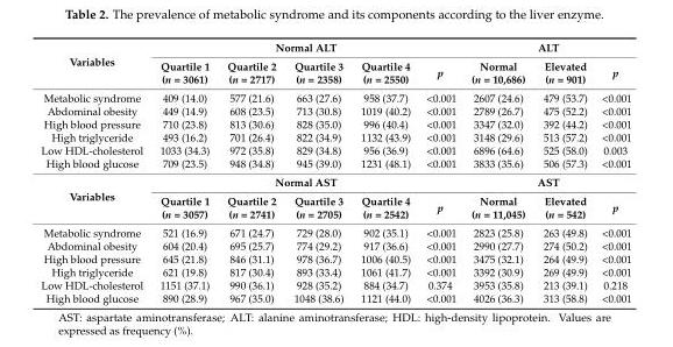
<table><tbody><tr><td rowspan="2">Variables</td><td colspan="5">Normal ALT</td><td colspan="3">ALT</td></tr><tr><td>Quartile 1 (n = 3061)</td><td>Quartile 2 (n = 2717)</td><td>Quartile 3 (n = 2358)</td><td>Quartile 4 (n = 2550)</td><td>p</td><td>Normal (n = 10,686)</td><td>Elevated (n = 901)</td><td>p</td></tr><tr><td>Metabolic syndrome</td><td>409 (14.0)</td><td>577 (21.6)</td><td>663 (27.6)</td><td>958 (37.7)</td><td>&lt;0.001</td><td>2607 (24.6)</td><td>479 (53.7)</td><td>&lt;0.001</td></tr><tr><td>Abdominal obesity</td><td>449 (14.9)</td><td>608 (23.5)</td><td>713 (30.8)</td><td>1019 (40.2)</td><td>&lt;0.001</td><td>2789 (26.7)</td><td>475 (52.2)</td><td>&lt;0.001</td></tr><tr><td>High blood pressure</td><td>710 (23.8)</td><td>813 (30.6)</td><td>828 (35.0)</td><td>996 (40.4)</td><td>&lt;0.001</td><td>3347 (32.0)</td><td>392 (44.2)</td><td>&lt;0.001</td></tr><tr><td>High triglyceride</td><td>493 (16.2)</td><td>701 (26.4)</td><td>822 (34.9)</td><td>1132 (43.9)</td><td>&lt;0.001</td><td>3148 (29.6)</td><td>513 (57.2)</td><td>&lt;0.001</td></tr><tr><td>Low HDL-cholesterol</td><td>1033 (34.3)</td><td>972 (35.8)</td><td>829 (34.8)</td><td>956 (36.9)</td><td>&lt;0.001</td><td>6896 (64.6)</td><td>525 (58.0)</td><td>0.003</td></tr><tr><td>High blood glucose</td><td>709 (23.5)</td><td>948 (34.8)</td><td>945 (39.0)</td><td>1231 (48.1)</td><td>&lt;0.001</td><td>3833 (35.6)</td><td>506 (57.3)</td><td>&lt;0.001</td></tr><tr><td rowspan="2">Variables</td><td colspan="5">Normal AST</td><td colspan="3">AST</td></tr><tr><td>Quartile 1 (n = 3057)</td><td>Quartile 2 (n = 2741)</td><td>Quartile 3 (n = 2705)</td><td>Quartile 4 (n = 2542)</td><td>p</td><td>Normal (n = 11,045)</td><td>Elevated (n = 542)</td><td>p</td></tr><tr><td>Metabolic syndrome</td><td>521 (16.9)</td><td>671 (24.7)</td><td>729 (28.0)</td><td>902 (35.1)</td><td>&lt;0.001</td><td>2823 (25.8)</td><td>263 (49.8)</td><td>&lt;0.001</td></tr><tr><td>Abdominal obesity</td><td>604 (20.4)</td><td>695 (25.7)</td><td>774 (29.2)</td><td>917 (36.6)</td><td>&lt;0.001</td><td>2990 (27.7)</td><td>274 (50.2)</td><td>&lt;0.001</td></tr><tr><td>High blood pressure</td><td>645 (21.8)</td><td>846 (31.1)</td><td>978 (36.7)</td><td>1006 (40.5)</td><td>&lt;0.001</td><td>3475 (32.1)</td><td>264 (49.9)</td><td>&lt;0.001</td></tr><tr><td>High triglyceride</td><td>621 (19.8)</td><td>817 (30.4)</td><td>893 (33.4)</td><td>1061 (41.7)</td><td>&lt;0.001</td><td>3392 (30.9)</td><td>269 (49.9)</td><td>&lt;0.001</td></tr><tr><td>Low HDL-cholesterol</td><td>1151 (37.1)</td><td>990 (36.1)</td><td>928 (35.2)</td><td>884 (34.7)</td><td>0.374</td><td>3953 (35.8)</td><td>213 (39.1)</td><td>0.218</td></tr><tr><td>High blood glucose</td><td>890 (28.9)</td><td>967 (35.0)</td><td>1048 (38.6)</td><td>1121 (44.0)</td><td>&lt;0.001</td><td>4026 (36.3)</td><td>313 (58.8)</td><td>&lt;0.001</td></tr></tbody></table>